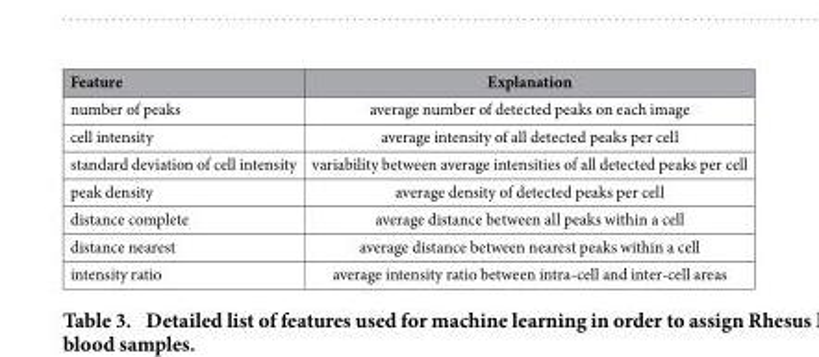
<table><thead><tr><td>Feature</td><td>Explanation</td></tr></thead><tbody><tr><td>number of peaks</td><td>average number of detected peaks on each image</td></tr><tr><td>cell intensity</td><td>average intensity of all detected peaks per cell</td></tr><tr><td>standard deviation of cell intensity</td><td>variability between average intensities of all detected peaks per cell</td></tr><tr><td>peak density</td><td>average density of detected peaks per cell</td></tr><tr><td>distance complete</td><td>average distance between all peaks within a cell</td></tr><tr><td>distance nearest</td><td>average distance between nearest peaks within a cell</td></tr><tr><td>intensity ratio</td><td>average intensity ratio between intra-cell and inter-cell areas</td></tr></tbody></table>